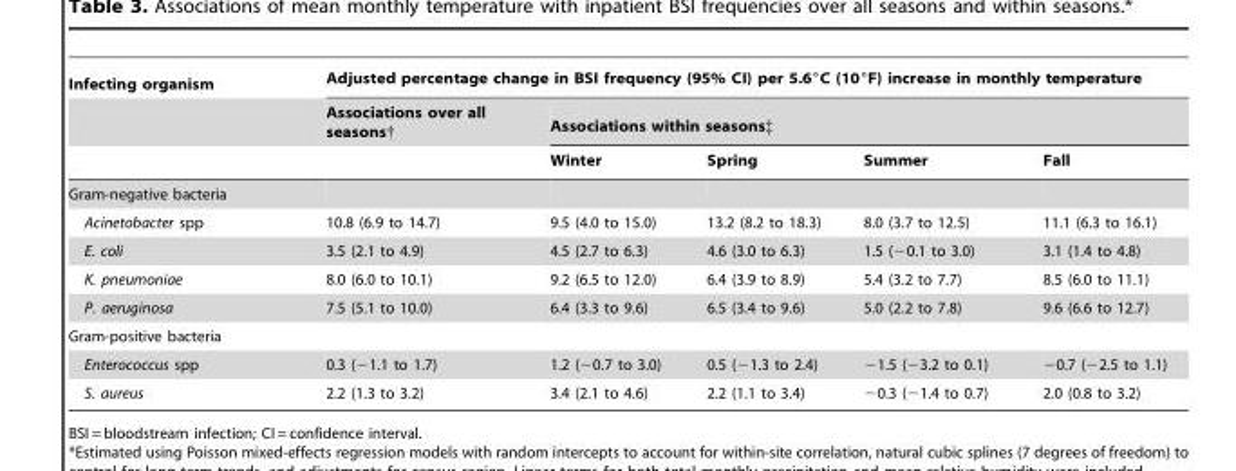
<table><thead><tr><td rowspan="3">Infecting organism</td><td colspan="5">Adjusted percentage change in BSI frequency (95% CI) per 5.6°C (10°F) increase in monthly temperature</td></tr><tr><td rowspan="2">Associations over all seasons†</td><td colspan="4">Associations within seasons‡</td></tr><tr><td>Winter</td><td>Spring</td><td>Summer</td><td>Fall</td></tr></thead><tbody><tr><td colspan="6">Gram-negative bacteria</td></tr><tr><td>Acinetobacter spp</td><td>10.8 (6.9 to 14.7)</td><td>9.5 (4.0 to 15.0)</td><td>13.2 (8.2 to 18.3)</td><td>8.0 (3.7 to 12.5)</td><td>11.1 (6.3 to 16.1)</td></tr><tr><td>E. coli</td><td>3.5 (2.1 to 4.9)</td><td>4.5 (2.7 to 6.3)</td><td>4.6 (3.0 to 6.3)</td><td>1.5 (−0.1 to 3.0)</td><td>3.1 (1.4 to 4.8)</td></tr><tr><td>K. pneumoniae</td><td>8.0 (6.0 to 10.1)</td><td>9.2 (6.5 to 12.0)</td><td>6.4 (3.9 to 8.9)</td><td>5.4 (3.2 to 7.7)</td><td>8.5 (6.0 to 11.1)</td></tr><tr><td>P. aeruginosa</td><td>7.5 (5.1 to 10.0)</td><td>6.4 (3.3 to 9.6)</td><td>6.5 (3.4 to 9.6)</td><td>5.0 (2.2 to 7.8)</td><td>9.6 (6.6 to 12.7)</td></tr><tr><td colspan="6">Gram-positive bacteria</td></tr><tr><td>Enterococcus spp</td><td>0.3 (−1.1 to 1.7)</td><td>1.2 (−0.7 to 3.0)</td><td>0.5 (−1.3 to 2.4)</td><td>−1.5 (−3.2 to 0.1)</td><td>−0.7 (−2.5 to 1.1)</td></tr><tr><td>S. aureus</td><td>2.2 (1.3 to 3.2)</td><td>3.4 (2.1 to 4.6)</td><td>2.2 (1.1 to 3.4)</td><td>−0.3 (−1.4 to 0.7)</td><td>2.0 (0.8 to 3.2)</td></tr></tbody></table>